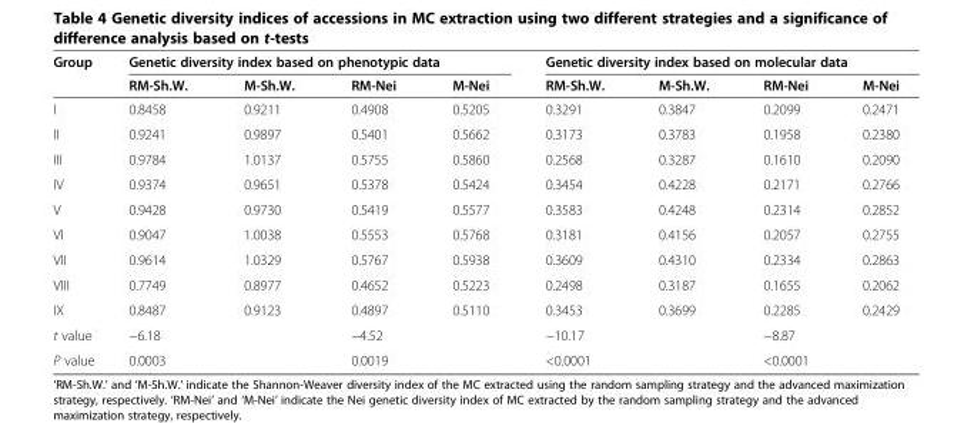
<table><thead><tr><td rowspan="2">Group</td><td colspan="4">Genetic diversity index based on phenotypic data</td><td colspan="4">Genetic diversity index based on molecular data</td></tr><tr><td>RM-Sh.W.</td><td>M-Sh.W.</td><td>RM-Nei</td><td>M-Nei</td><td>RM-Sh.W.</td><td>M-Sh.W.</td><td>RM-Nei</td><td>M-Nei</td></tr></thead><tbody><tr><td>I</td><td>0.8458</td><td>0.9211</td><td>0.4908</td><td>0.5205</td><td>0.3291</td><td>0.3847</td><td>0.2099</td><td>0.2471</td></tr><tr><td>II</td><td>0.9241</td><td>0.9897</td><td>0.5401</td><td>0.5662</td><td>0.3173</td><td>0.3783</td><td>0.1958</td><td>0.2380</td></tr><tr><td>III</td><td>0.9784</td><td>1.0137</td><td>0.5755</td><td>0.5860</td><td>0.2568</td><td>0.3287</td><td>0.1610</td><td>0.2090</td></tr><tr><td>IV</td><td>0.9374</td><td>0.9651</td><td>0.5378</td><td>0.5424</td><td>0.3454</td><td>0.4228</td><td>0.2171</td><td>0.2766</td></tr><tr><td>V</td><td>0.9428</td><td>0.9730</td><td>0.5419</td><td>0.5577</td><td>0.3583</td><td>0.4248</td><td>0.2314</td><td>0.2852</td></tr><tr><td>VI</td><td>0.9047</td><td>1.0038</td><td>0.5553</td><td>0.5768</td><td>0.3181</td><td>0.4156</td><td>0.2057</td><td>0.2755</td></tr><tr><td>VII</td><td>0.9614</td><td>1.0329</td><td>0.5767</td><td>0.5938</td><td>0.3609</td><td>0.4310</td><td>0.2334</td><td>0.2863</td></tr><tr><td>VIII</td><td>0.7749</td><td>0.8977</td><td>0.4652</td><td>0.5223</td><td>0.2498</td><td>0.3187</td><td>0.1655</td><td>0.2062</td></tr><tr><td>IX</td><td>0.8487</td><td>0.9123</td><td>0.4897</td><td>0.5110</td><td>0.3453</td><td>0.3699</td><td>0.2285</td><td>0.2429</td></tr><tr><td>t value</td><td colspan="2">−6.18</td><td colspan="2">−4.52</td><td colspan="2">−10.17</td><td colspan="2">−8.87</td></tr><tr><td>P value</td><td colspan="2">0.0003</td><td colspan="2">0.0019</td><td colspan="2">&lt;0.0001</td><td colspan="2">&lt;0.0001</td></tr></tbody></table>